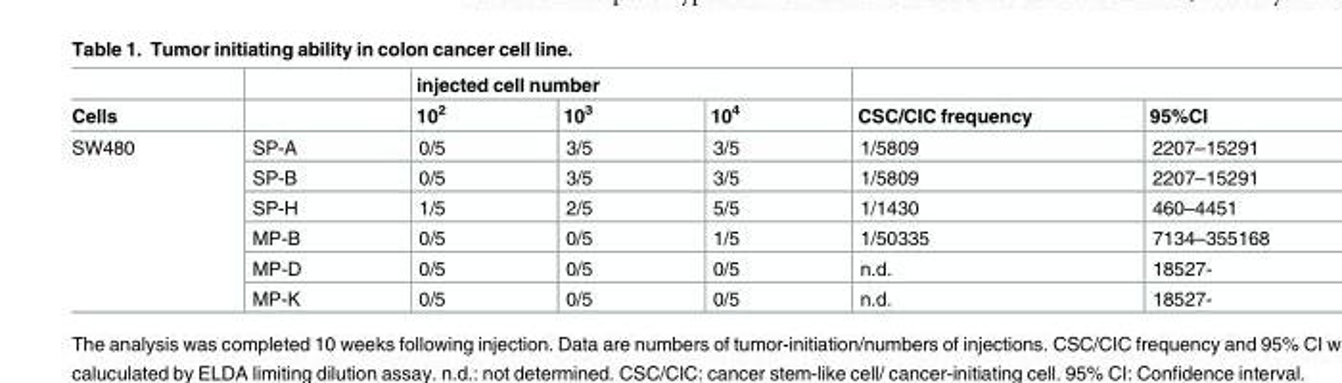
<table><thead><tr><td rowspan="2">Cells</td><td rowspan="2"></td><td colspan="3">injected cell number</td><td rowspan="2">CSC/CIC frequency</td><td rowspan="2">95%CI</td></tr><tr><td>10<sup>2</sup></td><td>10<sup>3</sup></td><td>10<sup>4</sup></td></tr></thead><tbody><tr><td rowspan="6">SW480</td><td>SP-A</td><td>0/5</td><td>3/5</td><td>3/5</td><td>1/5809</td><td>2207–15291</td></tr><tr><td>SP-B</td><td>0/5</td><td>3/5</td><td>3/5</td><td>1/5809</td><td>2207–15291</td></tr><tr><td>SP-H</td><td>1/5</td><td>2/5</td><td>5/5</td><td>1/1430</td><td>460–4451</td></tr><tr><td>MP-B</td><td>0/5</td><td>0/5</td><td>1/5</td><td>1/50335</td><td>7134–355168</td></tr><tr><td>MP-D</td><td>0/5</td><td>0/5</td><td>0/5</td><td>n.d.</td><td>18527-</td></tr><tr><td>MP-K</td><td>0/5</td><td>0/5</td><td>0/5</td><td>n.d.</td><td>18527-</td></tr></tbody></table>